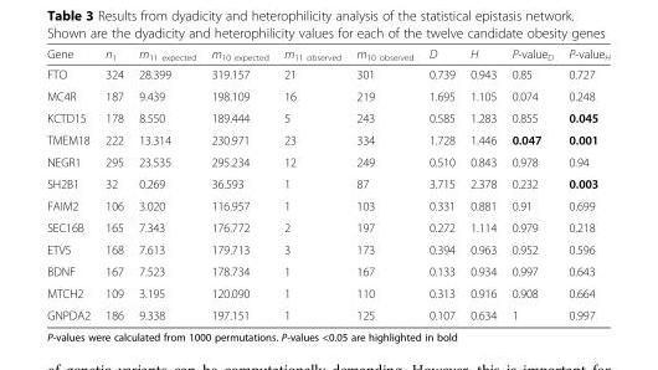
<table><thead><tr><td>Gene</td><td>n<sub>1</sub></td><td>m<sub>11 expected</sub></td><td>m<sub>10 expected</sub></td><td>m<sub>11 observed</sub></td><td>m<sub>10 observed</sub></td><td>D</td><td>H</td><td>P-value<sub>D</sub></td><td>P-value<sub>H</sub></td></tr></thead><tbody><tr><td>FTO</td><td>324</td><td>28.399</td><td>319.157</td><td>21</td><td>301</td><td>0.739</td><td>0.943</td><td>0.85</td><td>0.727</td></tr><tr><td>MC4R</td><td>187</td><td>9.439</td><td>198.109</td><td>16</td><td>219</td><td>1.695</td><td>1.105</td><td>0.074</td><td>0.248</td></tr><tr><td>KCTD15</td><td>178</td><td>8.550</td><td>189.444</td><td>5</td><td>243</td><td>0.585</td><td>1.283</td><td>0.855</td><td>0.045</td></tr><tr><td>TMEM18</td><td>222</td><td>13.314</td><td>230.971</td><td>23</td><td>334</td><td>1.728</td><td>1.446</td><td>0.047</td><td>0.001</td></tr><tr><td>NEGR1</td><td>295</td><td>23.535</td><td>295.234</td><td>12</td><td>249</td><td>0.510</td><td>0.843</td><td>0.978</td><td>0.94</td></tr><tr><td>SH2B1</td><td>32</td><td>0.269</td><td>36.593</td><td>1</td><td>87</td><td>3.715</td><td>2.378</td><td>0.232</td><td>0.003</td></tr><tr><td>FAIM2</td><td>106</td><td>3.020</td><td>116.957</td><td>1</td><td>103</td><td>0.331</td><td>0.881</td><td>0.91</td><td>0.699</td></tr><tr><td>SEC16B</td><td>165</td><td>7.343</td><td>176.772</td><td>2</td><td>197</td><td>0.272</td><td>1.114</td><td>0.979</td><td>0.218</td></tr><tr><td>ETV5</td><td>168</td><td>7.613</td><td>179.713</td><td>3</td><td>173</td><td>0.394</td><td>0.963</td><td>0.952</td><td>0.596</td></tr><tr><td>BDNF</td><td>167</td><td>7.523</td><td>178.734</td><td>1</td><td>167</td><td>0.133</td><td>0.934</td><td>0.997</td><td>0.643</td></tr><tr><td>MTCH2</td><td>109</td><td>3.195</td><td>120.090</td><td>1</td><td>110</td><td>0.313</td><td>0.916</td><td>0.908</td><td>0.664</td></tr><tr><td>GNPDA2</td><td>186</td><td>9.338</td><td>197.151</td><td>1</td><td>125</td><td>0.107</td><td>0.634</td><td>1</td><td>0.997</td></tr></tbody></table>